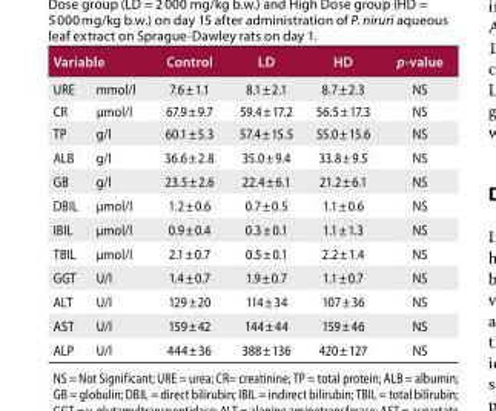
<table><thead><tr><td colspan="2">Variable</td><td rowspan="2">Control 7.6 ± 1.1</td><td rowspan="2">LD 8.1 ± 2.1</td><td rowspan="2">HD 8.7 ± 2.3</td><td rowspan="2">p-value NS</td></tr><tr><td>URE</td><td>mmol/l</td></tr></thead><tbody><tr><td>CR</td><td>μmol/l</td><td>67.9 ± 9.7</td><td>59.4 ± 17.2</td><td>56.5 ± 17.3</td><td>NS</td></tr><tr><td>TP</td><td>g/l</td><td>60.1 ± 5.3</td><td>57.4 ± 15.5</td><td>55.0 ± 15.6</td><td>NS</td></tr><tr><td>ALB</td><td>g/l</td><td>36.6 ± 2.8</td><td>35.0 ± 9.4</td><td>33.8 ± 9.5</td><td>NS</td></tr><tr><td>GB</td><td>g/l</td><td>23.5 ± 2.6</td><td>22.4 ± 6.1</td><td>21.2 ± 6.1</td><td>NS</td></tr><tr><td>DBIL</td><td>μmol/l</td><td>1.2 ± 0.6</td><td>0.7 ± 0.5</td><td>1.1 ± 0.6</td><td>NS</td></tr><tr><td>IBIL</td><td>μmol/l</td><td>0.9 ± 0.4</td><td>0.3 ± 0.1</td><td>1.1 ± 1.3</td><td>NS</td></tr><tr><td>TBIL</td><td>μmol/l</td><td>2.1 ± 0.7</td><td>0.5 ± 0.1</td><td>2.2 ± 1.4</td><td>NS</td></tr><tr><td>GGT</td><td>U/l</td><td>1.4 ± 0.7</td><td>1.9 ± 0.7</td><td>1.1 ± 0.7</td><td>NS</td></tr><tr><td>ALT</td><td>U/l</td><td>129 ± 20</td><td>114 ± 34</td><td>107 ± 36</td><td>NS</td></tr><tr><td>AST</td><td>U/l</td><td>159 ± 42</td><td>144 ± 44</td><td>159 ± 46</td><td>NS</td></tr><tr><td>ALP</td><td>U/l</td><td>444 ± 36</td><td>388 ± 136</td><td>420 ± 127</td><td>NS</td></tr></tbody></table>